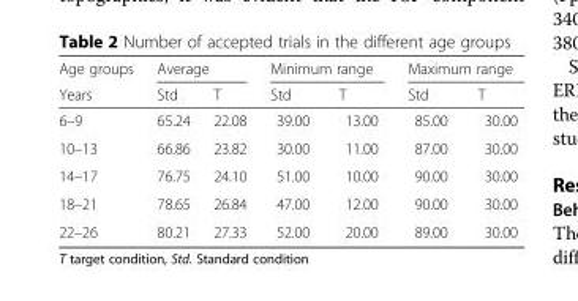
<table><thead><tr><td rowspan="2">Age groups Years</td><td colspan="2">Average</td><td colspan="2">Minimum range</td><td colspan="2">Maximum range</td></tr><tr><td>Std</td><td>T</td><td>Std</td><td>T</td><td>Std</td><td>T</td></tr></thead><tbody><tr><td>6–9</td><td>65.24</td><td>22.08</td><td>39.00</td><td>13.00</td><td>85.00</td><td>30.00</td></tr><tr><td>10–13</td><td>66.86</td><td>23.82</td><td>30.00</td><td>11.00</td><td>87.00</td><td>30.00</td></tr><tr><td>14–17</td><td>76.75</td><td>24.10</td><td>51.00</td><td>10.00</td><td>90.00</td><td>30.00</td></tr><tr><td>18–21</td><td>78.65</td><td>26.84</td><td>47.00</td><td>12.00</td><td>90.00</td><td>30.00</td></tr><tr><td>22–26</td><td>80.21</td><td>27.33</td><td>52.00</td><td>20.00</td><td>89.00</td><td>30.00</td></tr></tbody></table>